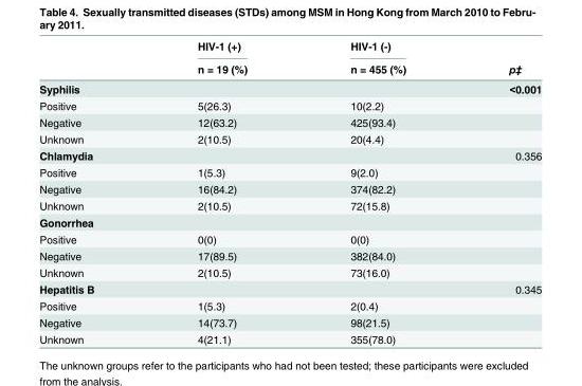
<table><thead><tr><td rowspan="2"></td><td rowspan="2">HIV-1 (+) n = 19 (%)</td><td rowspan="2">HIV-1 (-) n = 455 (%)</td><td rowspan="2">p‡</td></tr><tr></tr></thead><tbody><tr><td>Syphilis</td><td></td><td></td><td>&lt;0.001</td></tr><tr><td>Positive</td><td>5(26.3)</td><td>10(2.2)</td><td></td></tr><tr><td>Negative</td><td>12(63.2)</td><td>425(93.4)</td><td></td></tr><tr><td>Unknown</td><td>2(10.5)</td><td>20(4.4)</td><td></td></tr><tr><td>Chlamydia</td><td></td><td></td><td>0.356</td></tr><tr><td>Positive</td><td>1(5.3)</td><td>9(2.0)</td><td></td></tr><tr><td>Negative</td><td>16(84.2)</td><td>374(82.2)</td><td></td></tr><tr><td>Unknown</td><td>2(10.5)</td><td>72(15.8)</td><td></td></tr><tr><td colspan="4">Gonorrhea</td></tr><tr><td>Positive</td><td>0(0)</td><td>0(0)</td><td></td></tr><tr><td>Negative</td><td>17(89.5)</td><td>382(84.0)</td><td></td></tr><tr><td>Unknown</td><td>2(10.5)</td><td>73(16.0)</td><td></td></tr><tr><td>Hepatitis B</td><td></td><td></td><td>0.345</td></tr><tr><td>Positive</td><td>1(5.3)</td><td>2(0.4)</td><td></td></tr><tr><td>Negative</td><td>14(73.7)</td><td>98(21.5)</td><td></td></tr><tr><td>Unknown</td><td>4(21.1)</td><td>355(78.0)</td><td></td></tr></tbody></table>